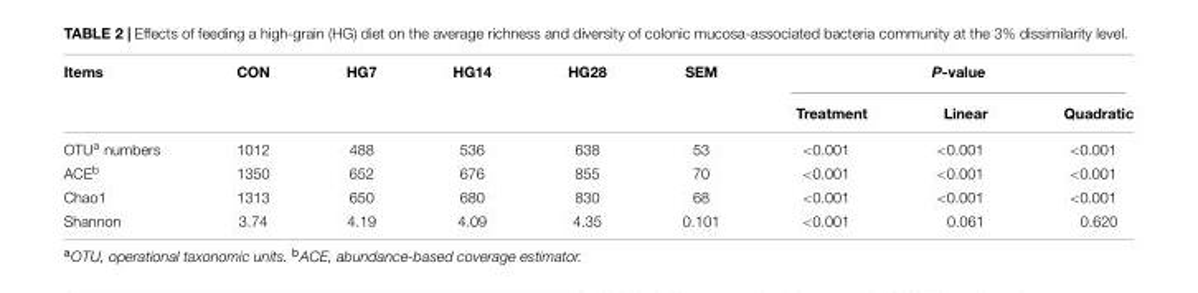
<table><thead><tr><td rowspan="2">Items</td><td rowspan="2">CON</td><td rowspan="2">HG7</td><td rowspan="2">HG14</td><td rowspan="2">HG28</td><td rowspan="2">SEM</td><td colspan="3">P-value</td></tr><tr><td>Treatment</td><td>Linear</td><td>Quadratic</td></tr></thead><tbody><tr><td>OTU<sup>a</sup> numbers</td><td>1012</td><td>488</td><td>536</td><td>638</td><td>53</td><td>&lt;0.001</td><td>&lt;0.001</td><td>&lt;0.001</td></tr><tr><td>ACE<sup>b</sup></td><td>1350</td><td>652</td><td>676</td><td>855</td><td>70</td><td>&lt;0.001</td><td>&lt;0.001</td><td>&lt;0.001</td></tr><tr><td>Chao1</td><td>1313</td><td>650</td><td>680</td><td>830</td><td>68</td><td>&lt;0.001</td><td>&lt;0.001</td><td>&lt;0.001</td></tr><tr><td>Shannon</td><td>3.74</td><td>4.19</td><td>4.09</td><td>4.35</td><td>0.101</td><td>&lt;0.001</td><td>0.061</td><td>0.620</td></tr></tbody></table>